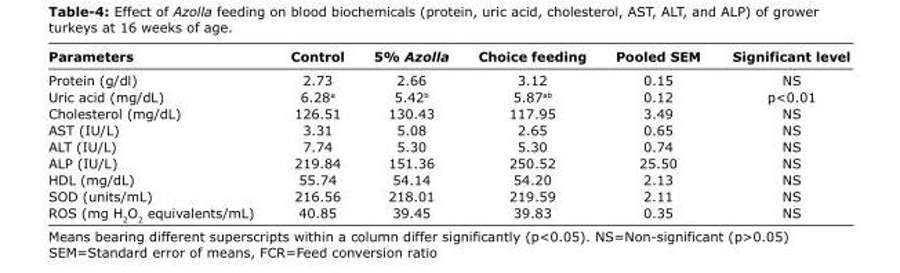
<table><thead><tr><td>Parameters</td><td>Control</td><td>5% Azolla</td><td>Choice feeding</td><td>Pooled SEM</td><td>Significant level</td></tr></thead><tbody><tr><td>Protein (g/dl)</td><td>2.73</td><td>2.66</td><td>3.12</td><td>0.15</td><td>NS</td></tr><tr><td>Uric acid (mg/dL)</td><td>6.28<sup>a</sup></td><td>5.42<sup>b</sup></td><td>5.87<sup>ab</sup></td><td>0.12</td><td>p&lt;0.01</td></tr><tr><td>Cholesterol (mg/dL)</td><td>126.51</td><td>130.43</td><td>117.95</td><td>3.49</td><td>NS</td></tr><tr><td>AST (IU/L)</td><td>3.31</td><td>5.08</td><td>2.65</td><td>0.65</td><td>NS</td></tr><tr><td>ALT (IU/L)</td><td>7.74</td><td>5.30</td><td>5.30</td><td>0.74</td><td>NS</td></tr><tr><td>ALP (IU/L)</td><td>219.84</td><td>151.36</td><td>250.52</td><td>25.50</td><td>NS</td></tr><tr><td>HDL (mg/dL)</td><td>55.74</td><td>54.14</td><td>54.20</td><td>2.13</td><td>NS</td></tr><tr><td>SOD (units/mL)</td><td>216.56</td><td>218.01</td><td>219.59</td><td>2.11</td><td>NS</td></tr><tr><td>ROS (mg H<sub>2</sub>O<sub>2</sub> equivalents/mL)</td><td>40.85</td><td>39.45</td><td>39.83</td><td>0.35</td><td>NS</td></tr></tbody></table>